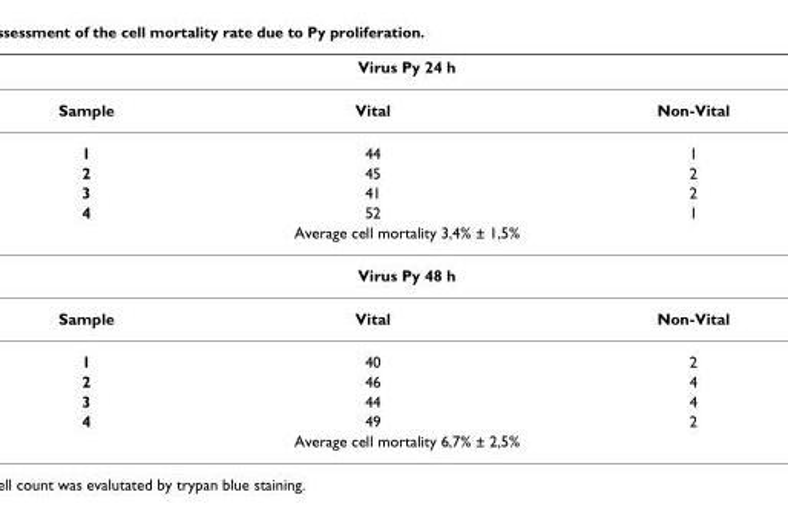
<table><thead><tr><td colspan="3">Virus Py 24 h</td></tr><tr><td>Sample</td><td>Vital</td><td>Non-Vital</td></tr></thead><tbody><tr><td>1</td><td>44</td><td>1</td></tr><tr><td>2</td><td>45</td><td>2</td></tr><tr><td>3</td><td>41</td><td>2</td></tr><tr><td>4</td><td>52</td><td>1</td></tr><tr><td colspan="3">Average cell mortality 3,4% ± 1,5%</td></tr><tr><td colspan="3">Virus Py 48 h</td></tr><tr><td>Sample</td><td>Vital</td><td>Non-Vital</td></tr><tr><td>1</td><td>40</td><td>2</td></tr><tr><td>2</td><td>46</td><td>4</td></tr><tr><td>3</td><td>44</td><td>4</td></tr><tr><td>4</td><td>49</td><td>2</td></tr><tr><td colspan="3">Average cell mortality 6,7% ± 2,5%</td></tr></tbody></table>